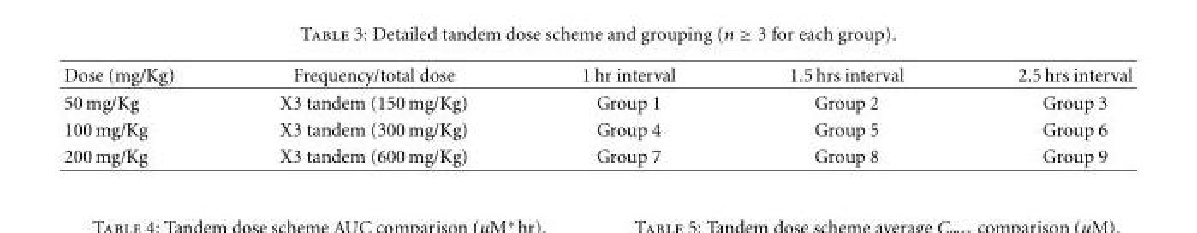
<table><thead><tr><td>Dose (mg/Kg)</td><td>Frequency/total dose</td><td>1 hr interval</td><td>1.5 hrs interval</td><td>2.5 hrs interval</td></tr></thead><tbody><tr><td>50 mg/Kg</td><td>X3 tandem (150 mg/Kg)</td><td>Group 1</td><td>Group 2</td><td>Group 3</td></tr><tr><td>100 mg/Kg</td><td>X3 tandem (300 mg/Kg)</td><td>Group 4</td><td>Group 5</td><td>Group 6</td></tr><tr><td>200 mg/Kg</td><td>X3 tandem (600 mg/Kg)</td><td>Group 7</td><td>Group 8</td><td>Group 9</td></tr></tbody></table>